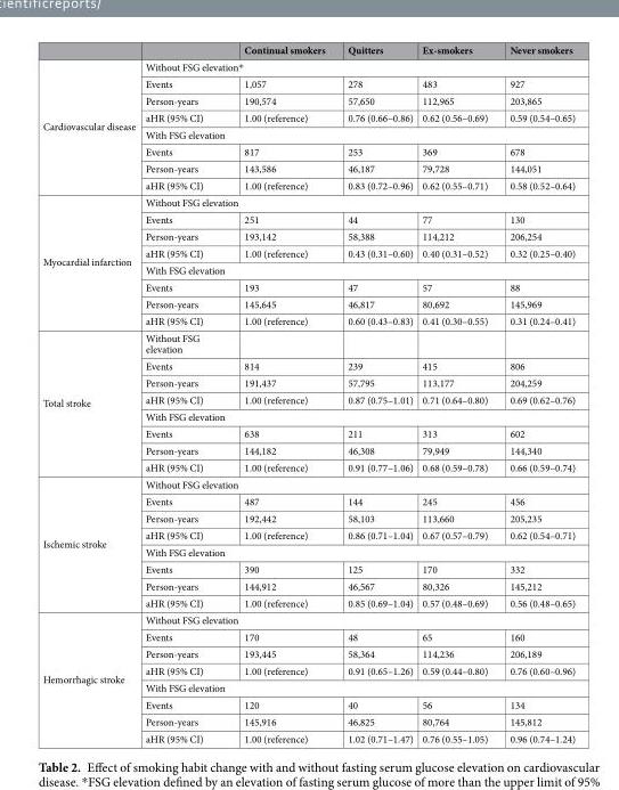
<table><thead><tr><td></td><td></td><td>Continual smokers</td><td>Quitters</td><td>Ex-smokers</td><td>Never smokers</td></tr></thead><tbody><tr><td rowspan="8">Cardiovascular disease</td><td colspan="5">Without FSG elevation*</td></tr><tr><td>Events</td><td>1,057</td><td>278</td><td>483</td><td>927</td></tr><tr><td>Person-years</td><td>190,574</td><td>57,650</td><td>112,965</td><td>203,865</td></tr><tr><td>aHR (95% CI)</td><td>1.00 (reference)</td><td>0.76 (0.66–0.86)</td><td>0.62 (0.56–0.69)</td><td>0.59 (0.54–0.65)</td></tr><tr><td colspan="5">With FSG elevation</td></tr><tr><td>Events</td><td>817</td><td>253</td><td>369</td><td>678</td></tr><tr><td>Person-years</td><td>143,586</td><td>46,187</td><td>79,728</td><td>144,051</td></tr><tr><td>aHR (95% CI)</td><td>1.00 (reference)</td><td>0.83 (0.72–0.96)</td><td>0.62 (0.55–0.71)</td><td>0.58 (0.52–0.64)</td></tr><tr><td rowspan="8">Myocardial infarction</td><td colspan="5">Without FSG elevation</td></tr><tr><td>Events</td><td>251</td><td>44</td><td>77</td><td>130</td></tr><tr><td>Person-years</td><td>193,142</td><td>58,388</td><td>114,212</td><td>206,254</td></tr><tr><td>aHR (95% CI)</td><td>1.00 (reference)</td><td>0.43 (0.31–0.60)</td><td>0.40 (0.31–0.52)</td><td>0.32 (0.25–0.40)</td></tr><tr><td colspan="5">With FSG elevation</td></tr><tr><td>Events</td><td>193</td><td>47</td><td>57</td><td>88</td></tr><tr><td>Person-years</td><td>145,645</td><td>46,817</td><td>80,692</td><td>145,969</td></tr><tr><td>aHR (95% CI)</td><td>1.00 (reference)</td><td>0.60 (0.43–0.83)</td><td>0.41 (0.30–0.55)</td><td>0.31 (0.24–0.41)</td></tr><tr><td rowspan="8">Total stroke</td><td>Without FSG elevation</td><td></td><td></td><td></td><td></td></tr><tr><td>Events</td><td>814</td><td>239</td><td>415</td><td>806</td></tr><tr><td>Person-years</td><td>191,437</td><td>57,795</td><td>113,177</td><td>204,259</td></tr><tr><td>aHR (95% CI)</td><td>1.00 (reference)</td><td>0.87 (0.75–1.01)</td><td>0.71 (0.64–0.80)</td><td>0.69 (0.62–0.76)</td></tr><tr><td colspan="5">With FSG elevation</td></tr><tr><td>Events</td><td>638</td><td>211</td><td>313</td><td>602</td></tr><tr><td>Person-years</td><td>144,182</td><td>46,308</td><td>79,949</td><td>144,340</td></tr><tr><td>aHR (95% CI)</td><td>1.00 (reference)</td><td>0.91 (0.77–1.06)</td><td>0.68 (0.59–0.78)</td><td>0.66 (0.59–0.74)</td></tr><tr><td rowspan="8">Ischemic stroke</td><td colspan="5">Without FSG elevation</td></tr><tr><td>Events</td><td>487</td><td>144</td><td>245</td><td>456</td></tr><tr><td>Person-years</td><td>192,442</td><td>58,103</td><td>113,660</td><td>205,235</td></tr><tr><td>aHR (95% CI)</td><td>1.00 (reference)</td><td>0.86 (0.71–1.04)</td><td>0.67 (0.57–0.79)</td><td>0.62 (0.54–0.71)</td></tr><tr><td colspan="5">With FSG elevation</td></tr><tr><td>Events</td><td>390</td><td>125</td><td>170</td><td>332</td></tr><tr><td>Person-years</td><td>144,912</td><td>46,567</td><td>80,326</td><td>145,212</td></tr><tr><td>aHR (95% CI)</td><td>1.00 (reference)</td><td>0.85 (0.69–1.04)</td><td>0.57 (0.48–0.69)</td><td>0.56 (0.48–0.65)</td></tr><tr><td rowspan="8">Hemorrhagic stroke</td><td colspan="5">Without FSG elevation</td></tr><tr><td>Events</td><td>170</td><td>48</td><td>65</td><td>160</td></tr><tr><td>Person-years</td><td>193,445</td><td>58,364</td><td>114,236</td><td>206,189</td></tr><tr><td>aHR (95% CI)</td><td>1.00 (reference)</td><td>0.91 (0.65–1.26)</td><td>0.59 (0.44–0.80)</td><td>0.76 (0.60–0.96)</td></tr><tr><td colspan="5">With FSG elevation</td></tr><tr><td>Events</td><td>120</td><td>40</td><td>56</td><td>134</td></tr><tr><td>Person-years</td><td>145,916</td><td>46,825</td><td>80,764</td><td>145,812</td></tr><tr><td>aHR (95% CI)</td><td>1.00 (reference)</td><td>1.02 (0.71–1.47)</td><td>0.76 (0.55–1.05)</td><td>0.96 (0.74–1.24)</td></tr></tbody></table>